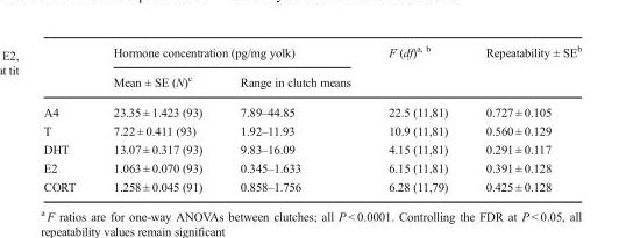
<table><thead><tr><td rowspan="2"></td><td colspan="2">Hormone concentration (pg/mg yolk)</td><td rowspan="2">F (df)<sup>a, b</sup></td><td rowspan="2">Repeatability ± SE<sup>b</sup></td></tr><tr><td>Mean ± SE (N)<sup>c</sup></td><td>Range in clutch means</td></tr></thead><tbody><tr><td>A4</td><td>23.35 ± 1.423 (93)</td><td>7.89–44.85</td><td>22.5 (11,81)</td><td>0.727 ± 0.105</td></tr><tr><td>T</td><td>7.22 ± 0.411 (93)</td><td>1.92–11.93</td><td>10.9 (11,81)</td><td>0.560 ± 0.129</td></tr><tr><td>DHT</td><td>13.07 ± 0.317 (93)</td><td>9.83–16.09</td><td>4.15 (11,81)</td><td>0.291 ± 0.117</td></tr><tr><td>E2</td><td>1.063 ± 0.070 (93)</td><td>0.345–1.633</td><td>6.15 (11,81)</td><td>0.391 ± 0.128</td></tr><tr><td>CORT</td><td>1.258 ± 0.045 (91)</td><td>0.858–1.756</td><td>6.28 (11,79)</td><td>0.425 ± 0.128</td></tr></tbody></table>